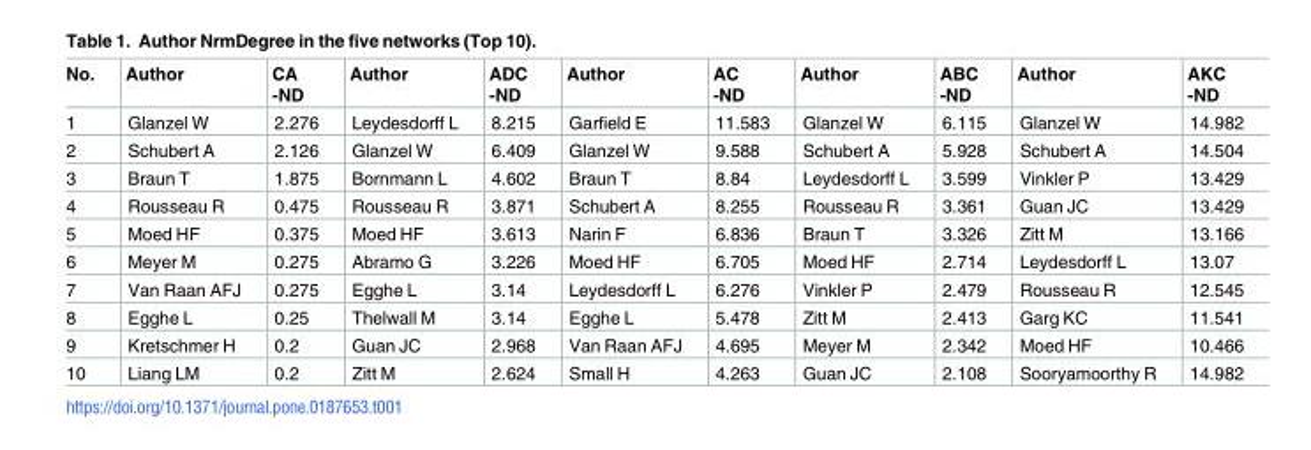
<table><thead><tr><td>No.</td><td>Author</td><td>CA -ND</td><td>Author</td><td>ADC -ND</td><td>Author</td><td>AC -ND</td><td>Author</td><td>ABC -ND</td><td>Author</td><td>AKC -ND</td></tr></thead><tbody><tr><td>1</td><td>Glanzel W</td><td>2.276</td><td>Leydesdorff L</td><td>8.215</td><td>Garfield E</td><td>11.583</td><td>Glanzel W</td><td>6.115</td><td>Glanzel W</td><td>14.982</td></tr><tr><td>2</td><td>Schubert A</td><td>2.126</td><td>Glanzel W</td><td>6.409</td><td>Glanzel W</td><td>9.588</td><td>Schubert A</td><td>5.928</td><td>Schubert A</td><td>14.504</td></tr><tr><td>3</td><td>Braun T</td><td>1.875</td><td>Bornmann L</td><td>4.602</td><td>Braun T</td><td>8.84</td><td>Leydesdorff L</td><td>3.599</td><td>Vinkler P</td><td>13.429</td></tr><tr><td>4</td><td>Rousseau R</td><td>0.475</td><td>Rousseau R</td><td>3.871</td><td>Schubert A</td><td>8.255</td><td>Rousseau R</td><td>3.361</td><td>Guan JC</td><td>13.429</td></tr><tr><td>5</td><td>Moed HF</td><td>0.375</td><td>Moed HF</td><td>3.613</td><td>Narin F</td><td>6.836</td><td>Braun T</td><td>3.326</td><td>Zitt M</td><td>13.166</td></tr><tr><td>6</td><td>Meyer M</td><td>0.275</td><td>Abramo G</td><td>3.226</td><td>Moed HF</td><td>6.705</td><td>Moed HF</td><td>2.714</td><td>Leydesdorff L</td><td>13.07</td></tr><tr><td>7</td><td>Van Raan AFJ</td><td>0.275</td><td>Egghe L</td><td>3.14</td><td>Leydesdorff L</td><td>6.276</td><td>Vinkler P</td><td>2.479</td><td>Rousseau R</td><td>12.545</td></tr><tr><td>8</td><td>Egghe L</td><td>0.25</td><td>Thelwall M</td><td>3.14</td><td>Egghe L</td><td>5.478</td><td>Zitt M</td><td>2.413</td><td>Garg KC</td><td>11.541</td></tr><tr><td>9</td><td>Kretschmer H</td><td>0.2</td><td>Guan JC</td><td>2.968</td><td>Van Raan AFJ</td><td>4.695</td><td>Meyer M</td><td>2.342</td><td>Moed HF</td><td>10.466</td></tr><tr><td>10</td><td>Liang LM</td><td>0.2</td><td>Zitt M</td><td>2.624</td><td>Small H</td><td>4.263</td><td>Guan JC</td><td>2.108</td><td>Sooryamoorthy R</td><td>14.982</td></tr></tbody></table>